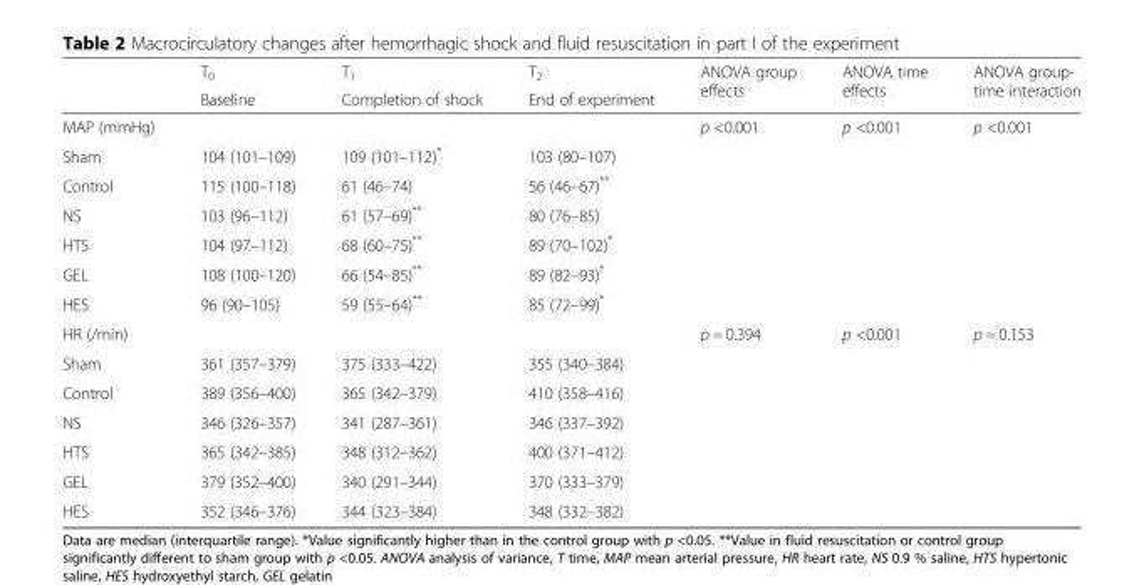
<table><thead><tr><td rowspan="2"></td><td rowspan="2">T<sub>0</sub> Baseline</td><td rowspan="2">T<sub>1</sub> Completion of shock</td><td rowspan="2">T<sub>2</sub> End of experiment</td><td rowspan="2">ANOVA group effects</td><td rowspan="2">ANOVA time effects</td><td rowspan="2">ANOVA group- time interaction</td></tr><tr></tr></thead><tbody><tr><td colspan="4">MAP (mmHg)</td><td rowspan="7">p &lt;0.001</td><td rowspan="7">p &lt;0.001</td><td rowspan="7">p &lt;0.001</td></tr><tr><td>Sham</td><td>104 (101–109)</td><td>109 (101–112)*</td><td>103 (80–107)</td></tr><tr><td>Control</td><td>115 (100–118)</td><td>61 (46–74)</td><td>56 (46–67)**</td></tr><tr><td>NS</td><td>103 (96–112)</td><td>61 (57–69)**</td><td>80 (76–85)</td></tr><tr><td>HTS</td><td>104 (97–112)</td><td>68 (60–75)**</td><td>89 (70–102)*</td></tr><tr><td>GEL</td><td>108 (100–120)</td><td>66 (54–85)**</td><td>89 (82–93)*</td></tr><tr><td>HES</td><td>96 (90–105)</td><td>59 (55–64)**</td><td>85 (72–99)*</td></tr><tr><td colspan="4">HR (/min)</td><td rowspan="7">p = 0.394</td><td rowspan="7">p &lt;0.001</td><td rowspan="7">p = 0.153</td></tr><tr><td>Sham</td><td>361 (357–379)</td><td>375 (333–422)</td><td>355 (340–384)</td></tr><tr><td>Control</td><td>389 (356–400)</td><td>365 (342–379)</td><td>410 (358–416)</td></tr><tr><td>NS</td><td>346 (326–357)</td><td>341 (287–361)</td><td>346 (337–392)</td></tr><tr><td>HTS</td><td>365 (342–385)</td><td>348 (312–362)</td><td>400 (371–412)</td></tr><tr><td>GEL</td><td>379 (352–400)</td><td>340 (291–344)</td><td>370 (333–379)</td></tr><tr><td>HES</td><td>352 (346–376)</td><td>344 (323–384)</td><td>348 (332–382)</td></tr></tbody></table>